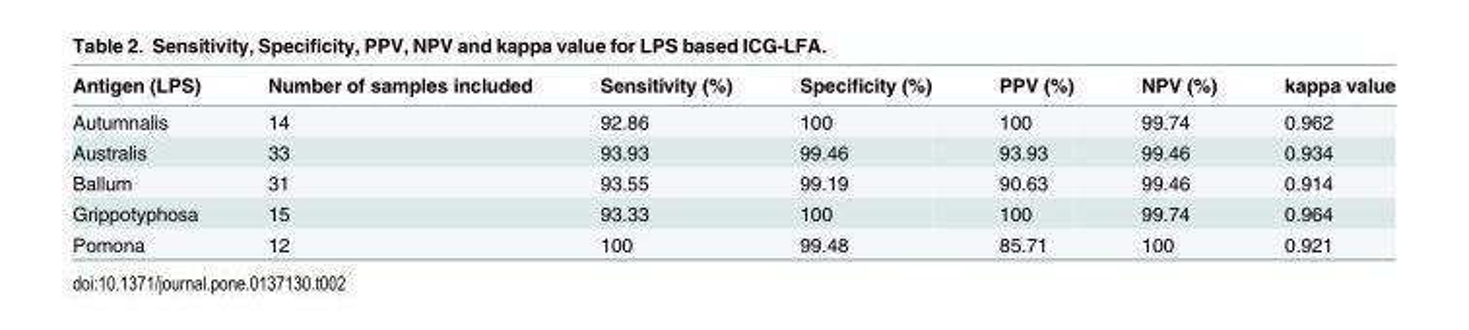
<table><thead><tr><td>Antigen (LPS)</td><td>Number of samples included</td><td>Sensitivity (%)</td><td>Specificity (%)</td><td>PPV (%)</td><td>NPV (%)</td><td>kappa value</td></tr></thead><tbody><tr><td>Autumnalis</td><td>14</td><td>92.86</td><td>100</td><td>100</td><td>99.74</td><td>0.962</td></tr><tr><td>Australis</td><td>33</td><td>93.93</td><td>99.46</td><td>93.93</td><td>99.46</td><td>0.934</td></tr><tr><td>Ballum</td><td>31</td><td>93.55</td><td>99.19</td><td>90.63</td><td>99.46</td><td>0.914</td></tr><tr><td>Grippotyphosa</td><td>15</td><td>93.33</td><td>100</td><td>100</td><td>99.74</td><td>0.964</td></tr><tr><td>Pomona</td><td>12</td><td>100</td><td>99.48</td><td>85.71</td><td>100</td><td>0.921</td></tr></tbody></table>